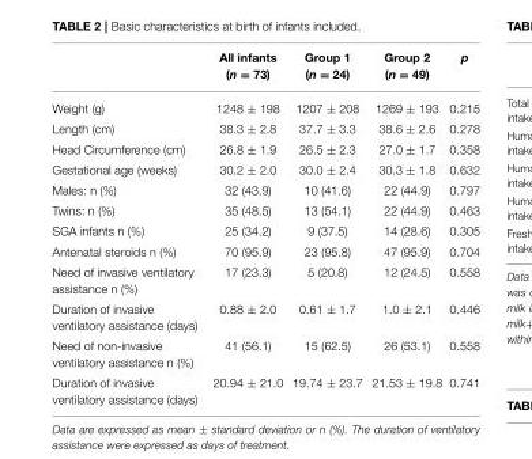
<table><thead><tr><td></td><td>All infants (n = 73)</td><td>Group 1 (n = 24)</td><td>Group 2 (n = 49)</td><td>p</td></tr></thead><tbody><tr><td>Weight (g)</td><td>1248 ± 198</td><td>1207 ± 208</td><td>1269 ± 193</td><td>0.215</td></tr><tr><td>Length (cm)</td><td>38.3 ± 2.8</td><td>37.7 ± 3.3</td><td>38.6 ± 2.6</td><td>0.278</td></tr><tr><td>Head Circumference (cm)</td><td>26.8 ± 1.9</td><td>26.5 ± 2.3</td><td>27.0 ± 1.7</td><td>0.358</td></tr><tr><td>Gestational age (weeks)</td><td>30.2 ± 2.0</td><td>30.0 ± 2.4</td><td>30.3 ± 1.8</td><td>0.632</td></tr><tr><td>Males: n (%)</td><td>32 (43.9)</td><td>10 (41.6)</td><td>22 (44.9)</td><td>0.797</td></tr><tr><td>Twins: n (%)</td><td>35 (48.5)</td><td>13 (54.1)</td><td>22 (44.9)</td><td>0.463</td></tr><tr><td>SGA infants n (%)</td><td>25 (34.2)</td><td>9 (37.5)</td><td>14 (28.6)</td><td>0.305</td></tr><tr><td>Antenatal steroids n (%)</td><td>70 (95.9)</td><td>23 (95.8)</td><td>47 (95.9)</td><td>0.704</td></tr><tr><td>Need of invasive ventilatory assistance n (%)</td><td>17 (23.3)</td><td>5 (20.8)</td><td>12 (24.5)</td><td>0.558</td></tr><tr><td>Duration of invasive ventilatory assistance (days)</td><td>0.88 ± 2.0</td><td>0.61 ± 1.7</td><td>1.0 ± 2.1</td><td>0.446</td></tr><tr><td>Need of non-invasive ventilatory assistance n (%)</td><td>41 (56.1)</td><td>15 (62.5)</td><td>26 (53.1)</td><td>0.558</td></tr><tr><td>Duration of invasive ventilatory assistance (days)</td><td>20.94 ± 21.0</td><td>19.74 ± 23.7</td><td>21.53 ± 19.8</td><td>0.741</td></tr></tbody></table>